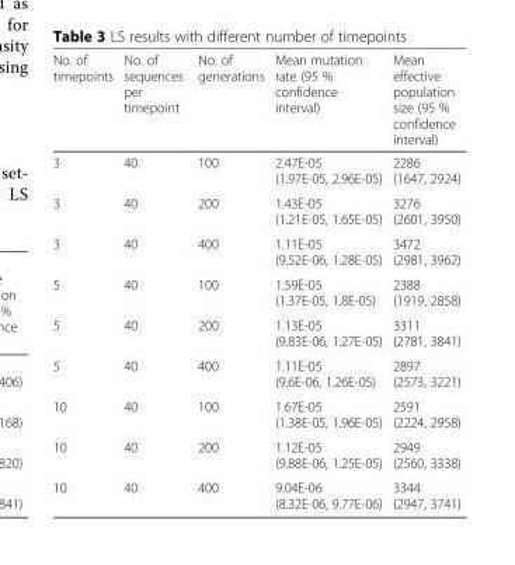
<table><thead><tr><td>No. of timepoints</td><td>No. of sequences per timepoint</td><td>No. of generations</td><td>Mean mutation rate (95 % confidence interval)</td><td>Mean effective population size (95 % confidence interval)</td></tr></thead><tbody><tr><td>3</td><td>40</td><td>100</td><td>2.47E-05 (1.97E-05, 2.96E-05)</td><td>2286 (1647, 2924)</td></tr><tr><td>3</td><td>40</td><td>200</td><td>1.43E-05 (1.21E-05, 1.65E-05)</td><td>3276 (2601, 3950)</td></tr><tr><td>3</td><td>40</td><td>400</td><td>1.11E-05 (9.52E-06, 1.28E-05)</td><td>3472 (2981, 3962)</td></tr><tr><td>5</td><td>40</td><td>100</td><td>1.59E-05 (1.37E-05, 1.8E-05)</td><td>2388 (1919, 2858)</td></tr><tr><td>5</td><td>40</td><td>200</td><td>1.13E-05 (9.83E-06, 1.27E-05)</td><td>3311 (2781, 3841)</td></tr><tr><td>5</td><td>40</td><td>400</td><td>1.11E-05 (9.6E-06, 1.26E-05)</td><td>2897 (2573, 3221)</td></tr><tr><td>10</td><td>40</td><td>100</td><td>1.67E-05 (1.38E-05, 1.96E-05)</td><td>2591 (2224, 2958)</td></tr><tr><td>10</td><td>40</td><td>200</td><td>1.12E-05 (9.88E-06, 1.25E-05)</td><td>2949 (2560, 3338)</td></tr><tr><td>10</td><td>40</td><td>400</td><td>9.04E-06 (8.32E-06, 9.77E-06)</td><td>3344 (2947, 3741)</td></tr></tbody></table>